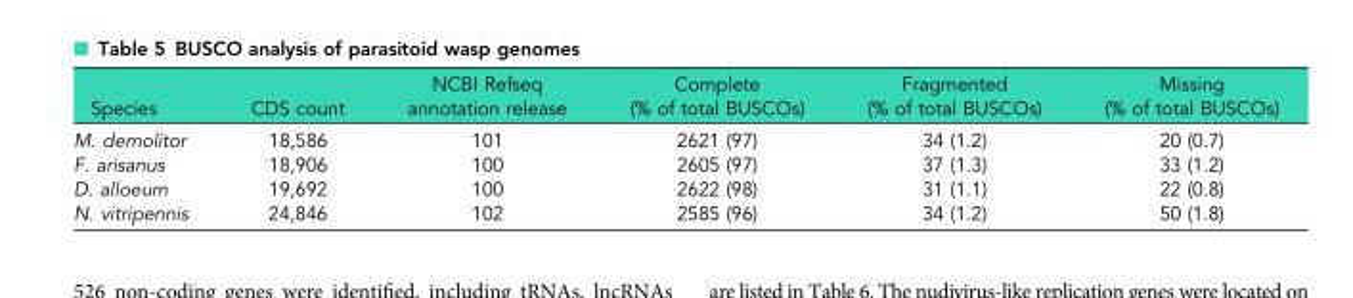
<table><thead><tr><td>Species</td><td>CDS count</td><td>NCBI Refseq annotation release</td><td>Complete (% of total BUSCOs)</td><td>Fragmented (% of total BUSCOs)</td><td>Missing (% of total BUSCOs)</td></tr></thead><tbody><tr><td>M. demolitor</td><td>18,586</td><td>101</td><td>2621 (97)</td><td>34 (1.2)</td><td>20 (0.7)</td></tr><tr><td>F. arisanus</td><td>18,906</td><td>100</td><td>2605 (97)</td><td>37 (1.3)</td><td>33 (1.2)</td></tr><tr><td>D. alloeum</td><td>19,692</td><td>100</td><td>2622 (98)</td><td>31 (1.1)</td><td>22 (0.8)</td></tr><tr><td>N. vitripennis</td><td>24,846</td><td>102</td><td>2585 (96)</td><td>34 (1.2)</td><td>50 (1.8)</td></tr></tbody></table>